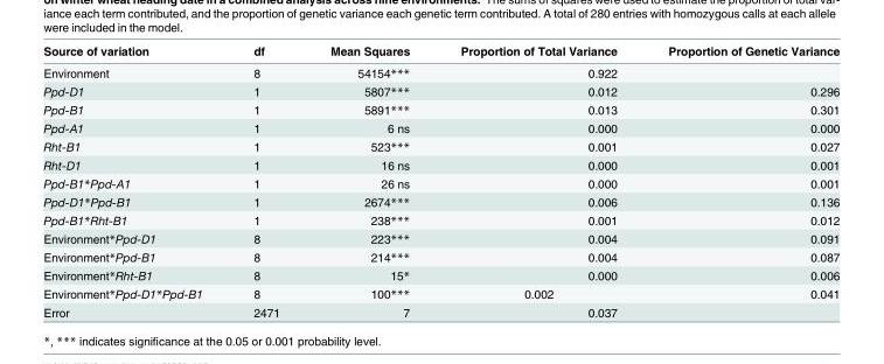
<table><thead><tr><td>Source of variation</td><td>df</td><td>Mean Squares</td><td>Proportion of Total Variance</td><td>Proportion of Genetic Variance</td></tr></thead><tbody><tr><td>Environment</td><td>8</td><td>54154***</td><td>0.922</td><td></td></tr><tr><td>Ppd-D1</td><td>1</td><td>5807***</td><td>0.012</td><td>0.296</td></tr><tr><td>Ppd-B1</td><td>1</td><td>5891***</td><td>0.013</td><td>0.301</td></tr><tr><td>Ppd-A1</td><td>1</td><td>6 ns</td><td>0.000</td><td>0.000</td></tr><tr><td>Rht-B1</td><td>1</td><td>523***</td><td>0.001</td><td>0.027</td></tr><tr><td>Rht-D1</td><td>1</td><td>16 ns</td><td>0.000</td><td>0.001</td></tr><tr><td>Ppd-B1*Ppd-A1</td><td>1</td><td>26 ns</td><td>0.000</td><td>0.001</td></tr><tr><td>Ppd-D1*Ppd-B1</td><td>1</td><td>2674***</td><td>0.006</td><td>0.136</td></tr><tr><td>Ppd-B1*Rht-B1</td><td>1</td><td>238***</td><td>0.001</td><td>0.012</td></tr><tr><td>Environment*Ppd-D1</td><td>8</td><td>223***</td><td>0.004</td><td>0.091</td></tr><tr><td>Environment*Ppd-B1</td><td>8</td><td>214***</td><td>0.004</td><td>0.087</td></tr><tr><td>Environment*Rht-B1</td><td>8</td><td>15*</td><td>0.000</td><td>0.006</td></tr><tr><td>Environment*Ppd-D1*Ppd-B1</td><td>8</td><td>100***</td><td>0.002</td><td>0.041</td></tr><tr><td>Error</td><td>2471</td><td>7</td><td>0.037</td><td></td></tr></tbody></table>